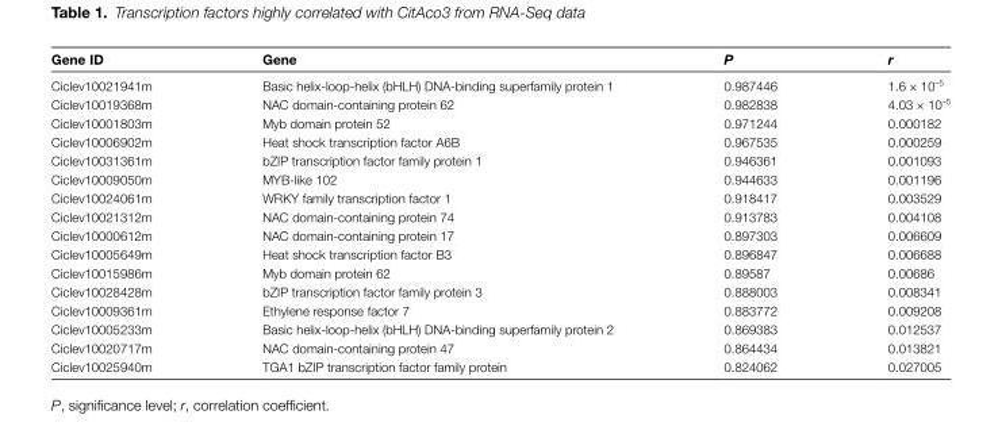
<table><thead><tr><td>Gene ID</td><td>Gene</td><td>P</td><td>r</td></tr></thead><tbody><tr><td>Ciclev10021941m</td><td>Basic helix-loop-helix (bHLH) DNA-binding superfamily protein 1</td><td>0.987446</td><td>1.6 × 10<sup>–5</sup></td></tr><tr><td>Ciclev10019368m</td><td>NAC domain-containing protein 62</td><td>0.982838</td><td>4.03 × 10<sup>–5</sup></td></tr><tr><td>Ciclev10001803m</td><td>Myb domain protein 52</td><td>0.971244</td><td>0.000182</td></tr><tr><td>Ciclev10006902m</td><td>Heat shock transcription factor A6B</td><td>0.967535</td><td>0.000259</td></tr><tr><td>Ciclev10031361m</td><td>bZIP transcription factor family protein 1</td><td>0.946361</td><td>0.001093</td></tr><tr><td>Ciclev10009050m</td><td>MYB-like 102</td><td>0.944633</td><td>0.001196</td></tr><tr><td>Ciclev10024061m</td><td>WRKY family transcription factor 1</td><td>0.918417</td><td>0.003529</td></tr><tr><td>Ciclev10021312m</td><td>NAC domain-containing protein 74</td><td>0.913783</td><td>0.004108</td></tr><tr><td>Ciclev10000612m</td><td>NAC domain-containing protein 17</td><td>0.897303</td><td>0.006609</td></tr><tr><td>Ciclev10005649m</td><td>Heat shock transcription factor B3</td><td>0.896847</td><td>0.006688</td></tr><tr><td>Ciclev10015986m</td><td>Myb domain protein 62</td><td>0.89587</td><td>0.00686</td></tr><tr><td>Ciclev10028428m</td><td>bZIP transcription factor family protein 3</td><td>0.888003</td><td>0.008341</td></tr><tr><td>Ciclev10009361m</td><td>Ethylene response factor 7</td><td>0.883772</td><td>0.009208</td></tr><tr><td>Ciclev10005233m</td><td>Basic helix-loop-helix (bHLH) DNA-binding superfamily protein 2</td><td>0.869383</td><td>0.012537</td></tr><tr><td>Ciclev10020717m</td><td>NAC domain-containing protein 47</td><td>0.864434</td><td>0.013821</td></tr><tr><td>Ciclev10025940m</td><td>TGA1 bZIP transcription factor family protein</td><td>0.824062</td><td>0.027005</td></tr></tbody></table>